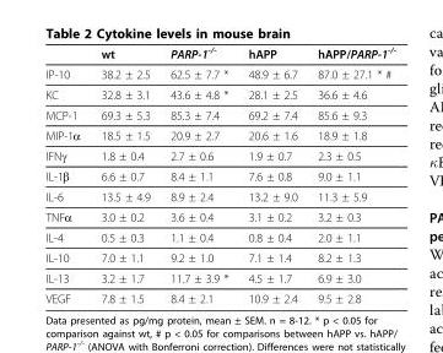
<table><thead><tr><td></td><td>wt</td><td>PARP-1<sup>-/-</sup></td><td>hAPP</td><td>hAPP/PARP-1<sup>-/-</sup></td></tr></thead><tbody><tr><td>IP-10</td><td>38.2 ± 2.5</td><td>62.5 ± 7.7 *</td><td>48.9 ± 6.7</td><td>87.0 ± 27.1 * #</td></tr><tr><td>KC</td><td>32.8 ± 3.1</td><td>43.6 ± 4.8 *</td><td>28.1 ± 2.5</td><td>36.6 ± 4.6</td></tr><tr><td>MCP-1</td><td>69.3 ± 5.3</td><td>85.3 ± 7.4</td><td>69.2 ± 7.4</td><td>85.6 ± 9.3</td></tr><tr><td>MIP-1α</td><td>18.5 ± 1.5</td><td>20.9 ± 2.7</td><td>20.6 ± 1.6</td><td>18.9 ± 1.8</td></tr><tr><td>IFNγ</td><td>1.8 ± 0.4</td><td>2.7 ± 0.6</td><td>1.9 ± 0.7</td><td>2.3 ± 0.5</td></tr><tr><td>IL-1β</td><td>6.6 ± 0.7</td><td>8.4 ± 1.1</td><td>7.6 ± 0.8</td><td>9.0 ± 1.1</td></tr><tr><td>IL-6</td><td>13.5 ± 4.9</td><td>8.9 ± 2.4</td><td>13.2 ± 9.0</td><td>11.3 ± 5.9</td></tr><tr><td>TNFα</td><td>3.0 ± 0.2</td><td>3.6 ± 0.4</td><td>3.1 ± 0.2</td><td>3.2 ± 0.3</td></tr><tr><td>IL-4</td><td>0.5 ± 0.3</td><td>1.1 ± 0.4</td><td>0.8 ± 0.4</td><td>2.0 ± 1.1</td></tr><tr><td>IL-10</td><td>7.0 ± 1.1</td><td>9.2 ± 1.0</td><td>7.1 ± 1.4</td><td>8.2 ± 1.3</td></tr><tr><td>IL-13</td><td>3.2 ± 1.7</td><td>11.7 ± 3.9 *</td><td>4.5 ± 1.7</td><td>6.9 ± 3.0</td></tr><tr><td>VEGF</td><td>7.8 ± 1.5</td><td>8.4 ± 2.1</td><td>10.9 ± 2.4</td><td>9.5 ± 2.8</td></tr></tbody></table>